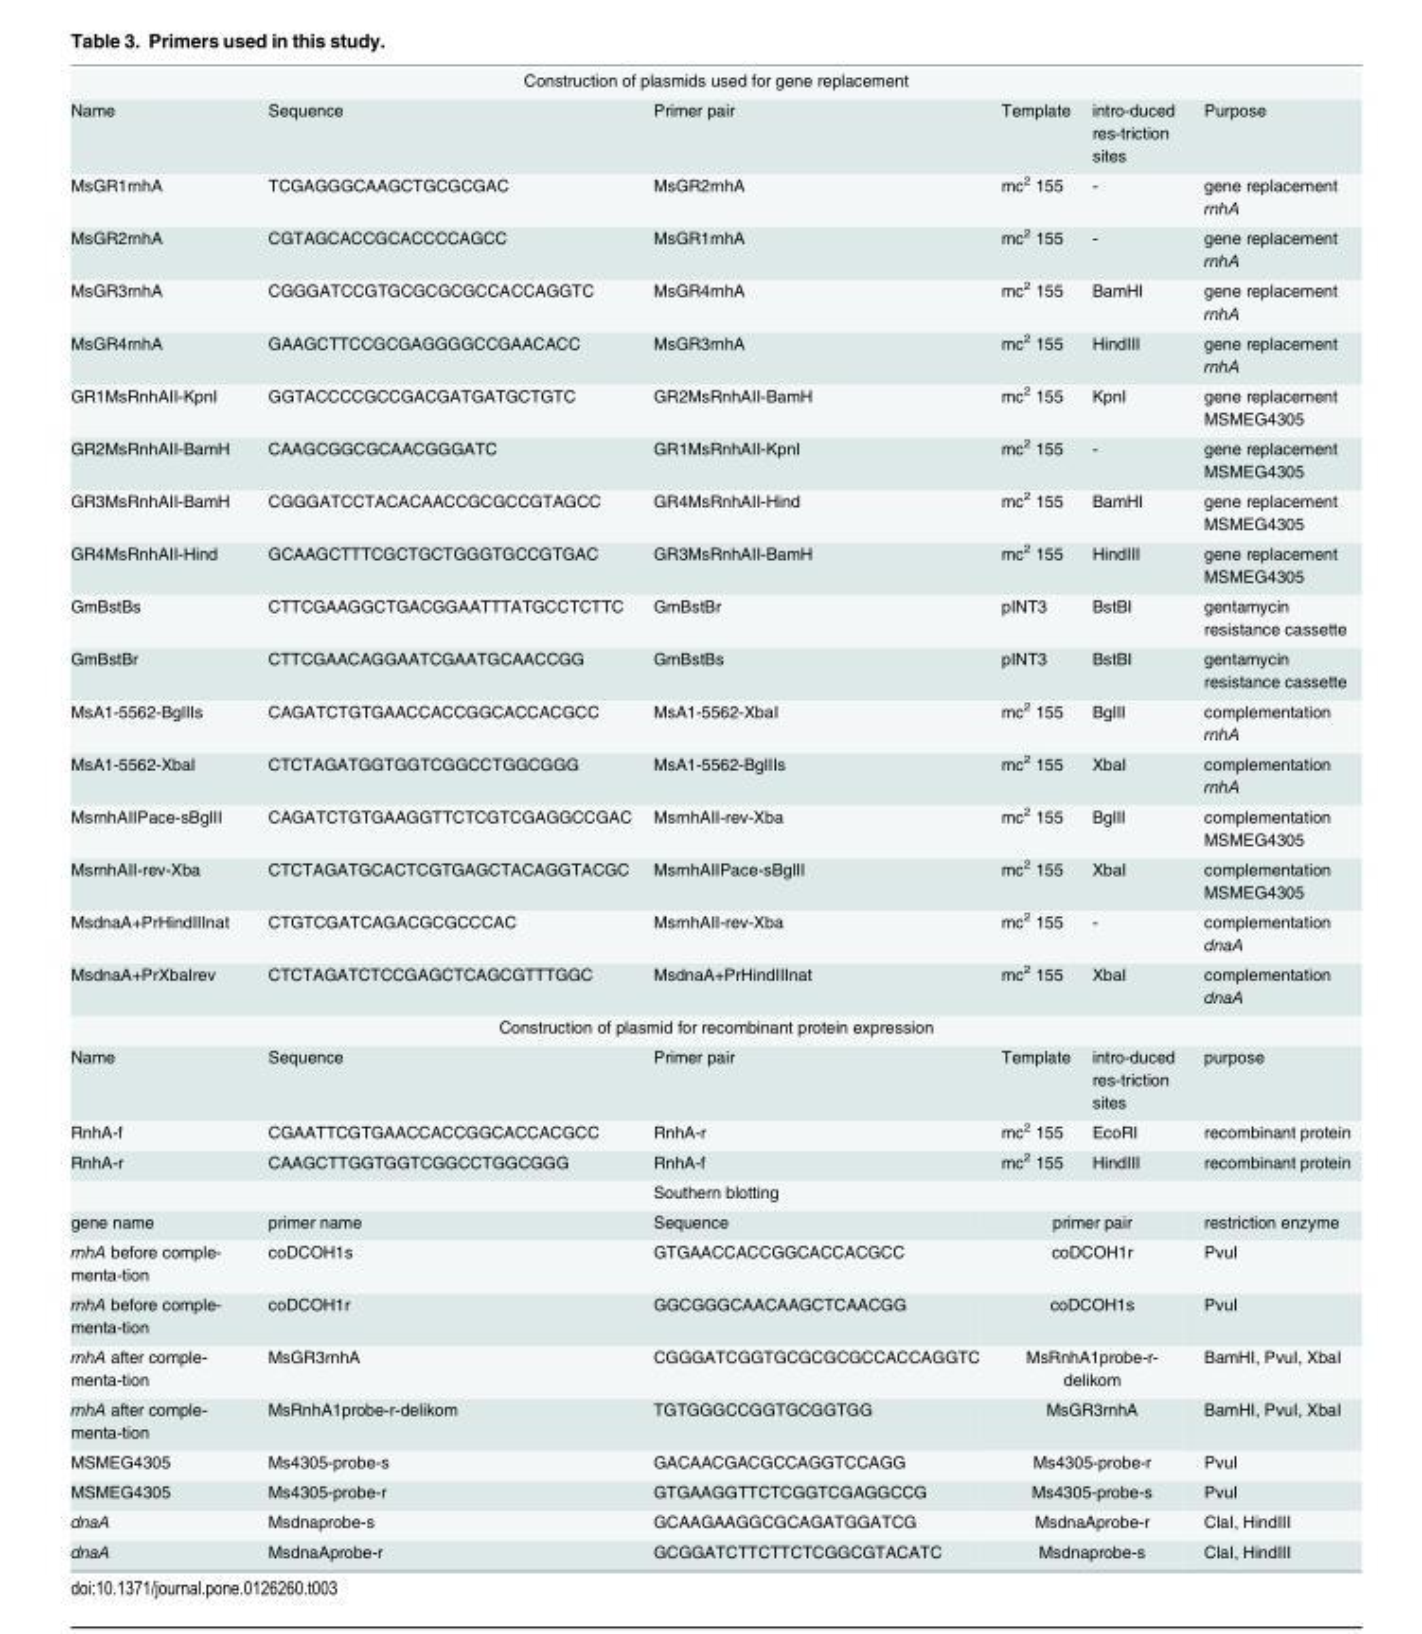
<table><tbody><tr><td colspan="6">Construction of plasmids used for gene replacement</td></tr><tr><td>Name</td><td>Sequence</td><td>Primer pair</td><td>Template</td><td>intro-duced res-triction sites</td><td>Purpose</td></tr><tr><td>MsGR1rnhA</td><td>TCGAGGGCAAGCTGCGCGAC</td><td>MsGR2rnhA</td><td>mc<sup>2</sup> 155</td><td>-</td><td>gene replacement rnhA</td></tr><tr><td>MsGR2rnhA</td><td>CGTAGCACCGCACCCCAGCC</td><td>MsGR1rnhA</td><td>mc<sup>2</sup> 155</td><td>-</td><td>gene replacement rnhA</td></tr><tr><td>MsGR3rnhA</td><td>CGGGATCCGTGCGCGCGCCACCAGGTC</td><td>MsGR4rnhA</td><td>mc<sup>2</sup> 155</td><td>BamHI</td><td>gene replacement rnhA</td></tr><tr><td>MsGR4rnhA</td><td>GAAGCTTCCGCGAGGGGCCGAACACC</td><td>MsGR3rnhA</td><td>mc<sup>2</sup> 155</td><td>HindIII</td><td>gene replacement rnhA</td></tr><tr><td>GR1MsRnhAII-KpnI</td><td>GGTACCCCGCCGACGATGATGCTGTC</td><td>GR2MsRnhAII-BamH</td><td>mc<sup>2</sup> 155</td><td>KpnI</td><td>gene replacement MSMEG4305</td></tr><tr><td>GR2MsRnhAII-BamH</td><td>CAAGCGGCGCAACGGGATC</td><td>GR1MsRnhAII-KpnI</td><td>mc<sup>2</sup> 155</td><td>-</td><td>gene replacement MSMEG4305</td></tr><tr><td>GR3MsRnhAII-BamH</td><td>CGGGATCCTACACAACCGCGCCGTAGCC</td><td>GR4MsRnhAII-Hind</td><td>mc<sup>2</sup> 155</td><td>BamHI</td><td>gene replacement MSMEG4305</td></tr><tr><td>GR4MsRnhAII-Hind</td><td>GCAAGCTTTCGCTGCTGGGTGCCGTGAC</td><td>GR3MsRnhAII-BamH</td><td>mc<sup>2</sup> 155</td><td>HindIII</td><td>gene replacement MSMEG4305</td></tr><tr><td>GmBstBs</td><td>CTTCGAAGGCTGACGGAATTTATGCCTCTTC</td><td>GmBstBr</td><td>pINT3</td><td>BstBI</td><td>gentamycin resistance cassette</td></tr><tr><td>GmBstBr</td><td>CTTCGAACAGGAATCGAATGCAACCGG</td><td>GmBstBs</td><td>pINT3</td><td>BstBI</td><td>gentamycin resistance cassette</td></tr><tr><td>MsA1-5562-BglIIs</td><td>CAGATCTGTGAACCACCGGCACCACGCC</td><td>MsA1-5562-XbaI</td><td>mc<sup>2</sup> 155</td><td>BglII</td><td>complementation rnhA</td></tr><tr><td>MsA1-5562-XbaI</td><td>CTCTAGATGGTGGTCGGCCTGGCGGG</td><td>MsA1-5562-BglIIs</td><td>mc<sup>2</sup> 155</td><td>XbaI</td><td>complementation rnhA</td></tr><tr><td>MsrnhAIIPace-sBglII</td><td>CAGATCTGTGAAGGTTCTCGTCGAGGCCGAC</td><td>MsrnhAII-rev-Xba</td><td>mc<sup>2</sup> 155</td><td>BglII</td><td>complementation MSMEG4305</td></tr><tr><td>MsrnhAII-rev-Xba</td><td>CTCTAGATGCACTCGTGAGCTACAGGTACGC</td><td>MsrnhAIIPace-sBglII</td><td>mc<sup>2</sup> 155</td><td>XbaI</td><td>complementation MSMEG4305</td></tr><tr><td>MsdnaA+PrHindIIInat</td><td>CTGTCGATCAGACGCGCCCAC</td><td>MsrnhAII-rev-Xba</td><td>mc<sup>2</sup> 155</td><td>-</td><td>complementation dnaA</td></tr><tr><td>MsdnaA+PrXbaIrev</td><td>CTCTAGATCTCCGAGCTCAGCGTTTGGC</td><td>MsdnaA+PrHindIIInat</td><td>mc<sup>2</sup> 155</td><td>XbaI</td><td>complementation dnaA</td></tr><tr><td colspan="6">Construction of plasmid for recombinant protein expression</td></tr><tr><td>Name</td><td>Sequence</td><td>Primer pair</td><td>Template</td><td>intro-duced res-triction sites</td><td>purpose</td></tr><tr><td>RnhA-f</td><td>CGAATTCGTGAACCACCGGCACCACGCC</td><td>RnhA-r</td><td>mc<sup>2</sup> 155</td><td>EcoRI</td><td>recombinant protein</td></tr><tr><td>RnhA-r</td><td>CAAGCTTGGTGGTCGGCCTGGCGGG</td><td>RnhA-f</td><td>mc<sup>2</sup> 155</td><td>HindIII</td><td>recombinant protein</td></tr><tr><td colspan="6">Southern blotting</td></tr><tr><td>gene name</td><td>primer name</td><td>Sequence</td><td colspan="2">primer pair</td><td>restriction enzyme</td></tr><tr><td>rnhA before comple- menta-tion</td><td>coDCOH1s</td><td>GTGAACCACCGGCACCACGCC</td><td colspan="2">coDCOH1r</td><td>PvuI</td></tr><tr><td>rnhA before comple- menta-tion</td><td>coDCOH1r</td><td>GGCGGGCAACAAGCTCAACGG</td><td colspan="2">coDCOH1s</td><td>PvuI</td></tr><tr><td>rnhA after comple- menta-tion</td><td>MsGR3rnhA</td><td>CGGGATCGGTGCGCGCGCCACCAGGTC</td><td colspan="2">MsRnhA1probe-r- delikom</td><td>BamHI, PvuI, XbaI</td></tr><tr><td>rnhA after comple- menta-tion</td><td>MsRnhA1probe-r-delikom</td><td>TGTGGGCCGGTGCGGTGG</td><td colspan="2">MsGR3rnhA</td><td>BamHI, PvuI, XbaI</td></tr><tr><td>MSMEG4305</td><td>Ms4305-probe-s</td><td>GACAACGACGCCAGGTCCAGG</td><td colspan="2">Ms4305-probe-r</td><td>PvuI</td></tr><tr><td>MSMEG4305</td><td>Ms4305-probe-r</td><td>GTGAAGGTTCTCGGTCGAGGCCG</td><td colspan="2">Ms4305-probe-s</td><td>PvuI</td></tr><tr><td>dnaA</td><td>Msdnaprobe-s</td><td>GCAAGAAGGCGCAGATGGATCG</td><td colspan="2">MsdnaAprobe-r</td><td>ClaI, HindIII</td></tr><tr><td>dnaA</td><td>MsdnaAprobe-r</td><td>GCGGATCTTCTTCTCGGCGTACATC</td><td colspan="2">Msdnaprobe-s</td><td>ClaI, HindIII</td></tr></tbody></table>